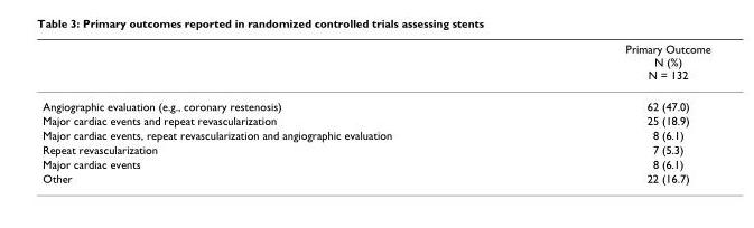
<table><thead><tr><td></td><td>Primary Outcome N (%) N = 132</td></tr></thead><tbody><tr><td>Angiographic evaluation (e.g., coronary restenosis)</td><td>62 (47.0)</td></tr><tr><td>Major cardiac events and repeat revascularization</td><td>25 (18.9)</td></tr><tr><td>Major cardiac events, repeat revascularization and angiographic evaluation</td><td>8 (6.1)</td></tr><tr><td>Repeat revascularization</td><td>7 (5.3)</td></tr><tr><td>Major cardiac events</td><td>8 (6.1)</td></tr><tr><td>Other</td><td>22 (16.7)</td></tr></tbody></table>